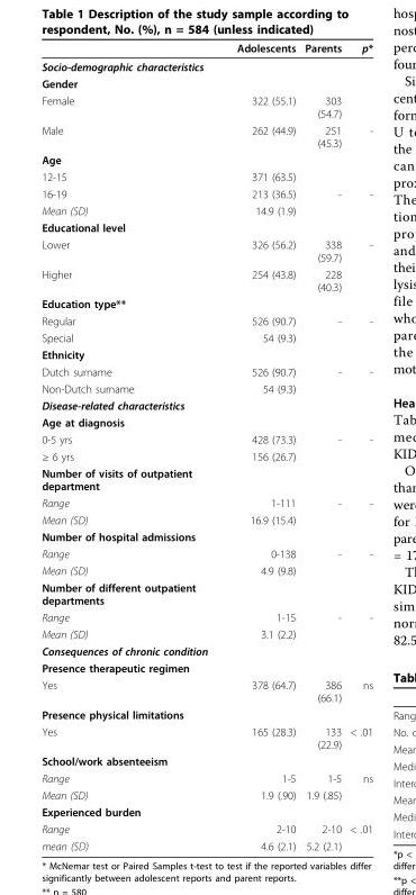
<table><thead><tr><td></td><td>Adolescents</td><td>Parents</td><td>p*</td></tr></thead><tbody><tr><td colspan="4">Socio-demographic characteristics</td></tr><tr><td colspan="4">Gender</td></tr><tr><td>Female</td><td>322 (55.1)</td><td>303 (54.7)</td><td></td></tr><tr><td>Male</td><td>262 (44.9)</td><td>251 (45.3)</td><td>-</td></tr><tr><td colspan="4">Age</td></tr><tr><td>12-15</td><td>371 (63.5)</td><td></td><td></td></tr><tr><td>16-19</td><td>213 (36.5)</td><td>-</td><td>-</td></tr><tr><td>Mean (SD)</td><td>14.9 (1.9)</td><td></td><td></td></tr><tr><td colspan="4">Educational level</td></tr><tr><td>Lower</td><td>326 (56.2)</td><td>338 (59.7)</td><td>-</td></tr><tr><td>Higher</td><td>254 (43.8)</td><td>228 (40.3)</td><td></td></tr><tr><td colspan="4">Education type**</td></tr><tr><td>Regular</td><td>526 (90.7)</td><td>-</td><td>-</td></tr><tr><td>Special</td><td>54 (9.3)</td><td></td><td></td></tr><tr><td colspan="4">Ethnicity</td></tr><tr><td>Dutch surname</td><td>526 (90.7)</td><td>-</td><td>-</td></tr><tr><td>Non-Dutch surname</td><td>54 (9.3)</td><td></td><td></td></tr><tr><td colspan="4">Disease-related characteristics</td></tr><tr><td colspan="4">Age at diagnosis</td></tr><tr><td>0-5 yrs</td><td>428 (73.3)</td><td>-</td><td>-</td></tr><tr><td>≥ 6 yrs</td><td>156 (26.7)</td><td></td><td></td></tr><tr><td colspan="4">Number of visits of outpatient department</td></tr><tr><td>Range</td><td>1-111</td><td>-</td><td>-</td></tr><tr><td>Mean (SD)</td><td>16.9 (15.4)</td><td></td><td></td></tr><tr><td colspan="4">Number of hospital admissions</td></tr><tr><td>Range</td><td>0-138</td><td>-</td><td>-</td></tr><tr><td>Mean (SD)</td><td>4.9 (9.8)</td><td></td><td></td></tr><tr><td colspan="4">Number of different outpatient departments</td></tr><tr><td>Range</td><td>1-15</td><td>-</td><td>-</td></tr><tr><td>Mean (SD)</td><td>3.1 (2.2)</td><td></td><td></td></tr><tr><td colspan="4">Consequences of chronic condition</td></tr><tr><td colspan="4">Presence therapeutic regimen</td></tr><tr><td>Yes</td><td>378 (64.7)</td><td>386 (66.1)</td><td>ns</td></tr><tr><td colspan="4">Presence physical limitations</td></tr><tr><td>Yes</td><td>165 (28.3)</td><td>133 (22.9)</td><td>&lt; .01</td></tr><tr><td colspan="4">School/work absenteeism</td></tr><tr><td>Range</td><td>1-5</td><td>1-5</td><td>ns</td></tr><tr><td>Mean (SD)</td><td>1.9 (.90)</td><td>1.9 (.85)</td><td></td></tr><tr><td colspan="4">Experienced burden</td></tr><tr><td>Range</td><td>2-10</td><td>2-10</td><td>&lt; .01</td></tr><tr><td>mean (SD)</td><td>4.6 (2.1)</td><td>5.2 (2.1)</td><td></td></tr></tbody></table>